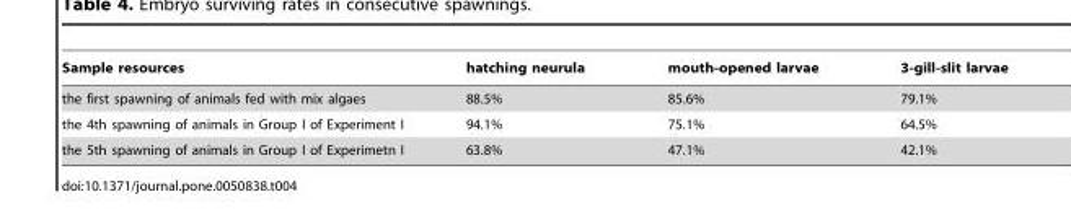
<table><thead><tr><td>Sample resources</td><td>hatching neurula</td><td>mouth-opened larvae</td><td>3-gill-slit larvae</td></tr></thead><tbody><tr><td>the first spawning of animals fed with mix algaes</td><td>88.5%</td><td>85.6%</td><td>79.1%</td></tr><tr><td>the 4th spawning of animals in Group I of Experiment I</td><td>94.1%</td><td>75.1%</td><td>64.5%</td></tr><tr><td>the 5th spawning of animals in Group I of Experimetn I</td><td>63.8%</td><td>47.1%</td><td>42.1%</td></tr></tbody></table>